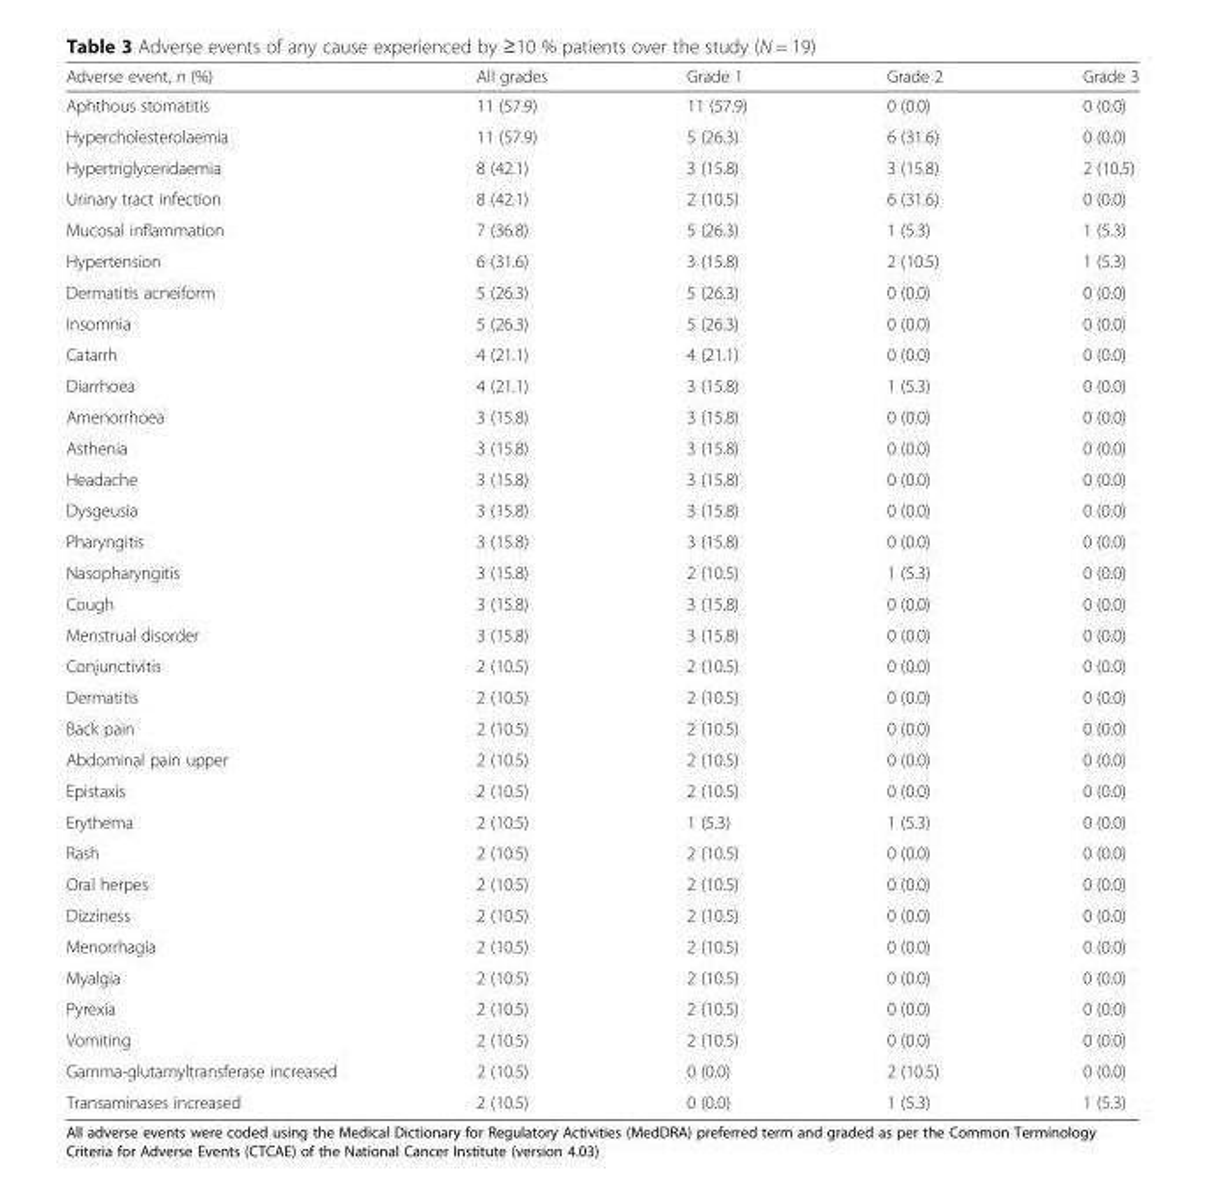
<table><thead><tr><td>Adverse event, n (%)</td><td>All grades</td><td>Grade 1</td><td>Grade 2</td><td>Grade 3</td></tr></thead><tbody><tr><td>Aphthous stomatitis</td><td>11 (57.9)</td><td>11 (57.9)</td><td>0 (0.0)</td><td>0 (0.0)</td></tr><tr><td>Hypercholesterolaemia</td><td>11 (57.9)</td><td>5 (26.3)</td><td>6 (31.6)</td><td>0 (0.0)</td></tr><tr><td>Hypertriglyceridaemia</td><td>8 (42.1)</td><td>3 (15.8)</td><td>3 (15.8)</td><td>2 (10.5)</td></tr><tr><td>Urinary tract infection</td><td>8 (42.1)</td><td>2 (10.5)</td><td>6 (31.6)</td><td>0 (0.0)</td></tr><tr><td>Mucosal inflammation</td><td>7 (36.8)</td><td>5 (26.3)</td><td>1 (5.3)</td><td>1 (5.3)</td></tr><tr><td>Hypertension</td><td>6 (31.6)</td><td>3 (15.8)</td><td>2 (10.5)</td><td>1 (5.3)</td></tr><tr><td>Dermatitis acneiform</td><td>5 (26.3)</td><td>5 (26.3)</td><td>0 (0.0)</td><td>0 (0.0)</td></tr><tr><td>Insomnia</td><td>5 (26.3)</td><td>5 (26.3)</td><td>0 (0.0)</td><td>0 (0.0)</td></tr><tr><td>Catarrh</td><td>4 (21.1)</td><td>4 (21.1)</td><td>0 (0.0)</td><td>0 (0.0)</td></tr><tr><td>Diarrhoea</td><td>4 (21.1)</td><td>3 (15.8)</td><td>1 (5.3)</td><td>0 (0.0)</td></tr><tr><td>Amenorrhoea</td><td>3 (15.8)</td><td>3 (15.8)</td><td>0 (0.0)</td><td>0 (0.0)</td></tr><tr><td>Asthenia</td><td>3 (15.8)</td><td>3 (15.8)</td><td>0 (0.0)</td><td>0 (0.0)</td></tr><tr><td>Headache</td><td>3 (15.8)</td><td>3 (15.8)</td><td>0 (0.0)</td><td>0 (0.0)</td></tr><tr><td>Dysgeusia</td><td>3 (15.8)</td><td>3 (15.8)</td><td>0 (0.0)</td><td>0 (0.0)</td></tr><tr><td>Pharyngitis</td><td>3 (15.8)</td><td>3 (15.8)</td><td>0 (0.0)</td><td>0 (0.0)</td></tr><tr><td>Nasopharyngitis</td><td>3 (15.8)</td><td>2 (10.5)</td><td>1 (5.3)</td><td>0 (0.0)</td></tr><tr><td>Cough</td><td>3 (15.8)</td><td>3 (15.8)</td><td>0 (0.0)</td><td>0 (0.0)</td></tr><tr><td>Menstrual disorder</td><td>3 (15.8)</td><td>3 (15.8)</td><td>0 (0.0)</td><td>0 (0.0)</td></tr><tr><td>Conjunctivitis</td><td>2 (10.5)</td><td>2 (10.5)</td><td>0 (0.0)</td><td>0 (0.0)</td></tr><tr><td>Dermatitis</td><td>2 (10.5)</td><td>2 (10.5)</td><td>0 (0.0)</td><td>0 (0.0)</td></tr><tr><td>Back pain</td><td>2 (10.5)</td><td>2 (10.5)</td><td>0 (0.0)</td><td>0 (0.0)</td></tr><tr><td>Abdominal pain upper</td><td>2 (10.5)</td><td>2 (10.5)</td><td>0 (0.0)</td><td>0 (0.0)</td></tr><tr><td>Epistaxis</td><td>2 (10.5)</td><td>2 (10.5)</td><td>0 (0.0)</td><td>0 (0.0)</td></tr><tr><td>Erythema</td><td>2 (10.5)</td><td>1 (5.3)</td><td>1 (5.3)</td><td>0 (0.0)</td></tr><tr><td>Rash</td><td>2 (10.5)</td><td>2 (10.5)</td><td>0 (0.0)</td><td>0 (0.0)</td></tr><tr><td>Oral herpes</td><td>2 (10.5)</td><td>2 (10.5)</td><td>0 (0.0)</td><td>0 (0.0)</td></tr><tr><td>Dizziness</td><td>2 (10.5)</td><td>2 (10.5)</td><td>0 (0.0)</td><td>0 (0.0)</td></tr><tr><td>Menorrhagia</td><td>2 (10.5)</td><td>2 (10.5)</td><td>0 (0.0)</td><td>0 (0.0)</td></tr><tr><td>Myalgia</td><td>2 (10.5)</td><td>2 (10.5)</td><td>0 (0.0)</td><td>0 (0.0)</td></tr><tr><td>Pyrexia</td><td>2 (10.5)</td><td>2 (10.5)</td><td>0 (0.0)</td><td>0 (0.0)</td></tr><tr><td>Vomiting</td><td>2 (10.5)</td><td>2 (10.5)</td><td>0 (0.0)</td><td>0 (0.0)</td></tr><tr><td>Gamma-glutamyltransferase increased</td><td>2 (10.5)</td><td>0 (0.0)</td><td>2 (10.5)</td><td>0 (0.0)</td></tr><tr><td>Transaminases increased</td><td>2 (10.5)</td><td>0 (0.0)</td><td>1 (5.3)</td><td>1 (5.3)</td></tr></tbody></table>